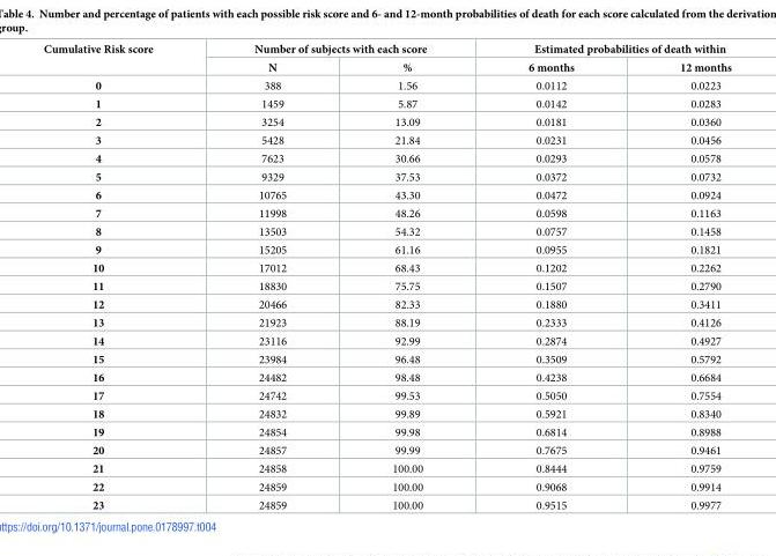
<table><thead><tr><td rowspan="2">Cumulative Risk score</td><td colspan="2">Number of subjects with each score</td><td colspan="2">Estimated probabilities of death within</td></tr><tr><td>N</td><td>%</td><td>6 months</td><td>12 months</td></tr></thead><tbody><tr><td>0</td><td>388</td><td>1.56</td><td>0.0112</td><td>0.0223</td></tr><tr><td>1</td><td>1459</td><td>5.87</td><td>0.0142</td><td>0.0283</td></tr><tr><td>2</td><td>3254</td><td>13.09</td><td>0.0181</td><td>0.0360</td></tr><tr><td>3</td><td>5428</td><td>21.84</td><td>0.0231</td><td>0.0456</td></tr><tr><td>4</td><td>7623</td><td>30.66</td><td>0.0293</td><td>0.0578</td></tr><tr><td>5</td><td>9329</td><td>37.53</td><td>0.0372</td><td>0.0732</td></tr><tr><td>6</td><td>10765</td><td>43.30</td><td>0.0472</td><td>0.0924</td></tr><tr><td>7</td><td>11998</td><td>48.26</td><td>0.0598</td><td>0.1163</td></tr><tr><td>8</td><td>13503</td><td>54.32</td><td>0.0757</td><td>0.1458</td></tr><tr><td>9</td><td>15205</td><td>61.16</td><td>0.0955</td><td>0.1821</td></tr><tr><td>10</td><td>17012</td><td>68.43</td><td>0.1202</td><td>0.2262</td></tr><tr><td>11</td><td>18830</td><td>75.75</td><td>0.1507</td><td>0.2790</td></tr><tr><td>12</td><td>20466</td><td>82.33</td><td>0.1880</td><td>0.3411</td></tr><tr><td>13</td><td>21923</td><td>88.19</td><td>0.2333</td><td>0.4126</td></tr><tr><td>14</td><td>23116</td><td>92.99</td><td>0.2874</td><td>0.4927</td></tr><tr><td>15</td><td>23984</td><td>96.48</td><td>0.3509</td><td>0.5792</td></tr><tr><td>16</td><td>24482</td><td>98.48</td><td>0.4238</td><td>0.6684</td></tr><tr><td>17</td><td>24742</td><td>99.53</td><td>0.5050</td><td>0.7554</td></tr><tr><td>18</td><td>24832</td><td>99.89</td><td>0.5921</td><td>0.8340</td></tr><tr><td>19</td><td>24854</td><td>99.98</td><td>0.6814</td><td>0.8988</td></tr><tr><td>20</td><td>24857</td><td>99.99</td><td>0.7675</td><td>0.9461</td></tr><tr><td>21</td><td>24858</td><td>100.00</td><td>0.8444</td><td>0.9759</td></tr><tr><td>22</td><td>24859</td><td>100.00</td><td>0.9068</td><td>0.9914</td></tr><tr><td>23</td><td>24859</td><td>100.00</td><td>0.9515</td><td>0.9977</td></tr></tbody></table>